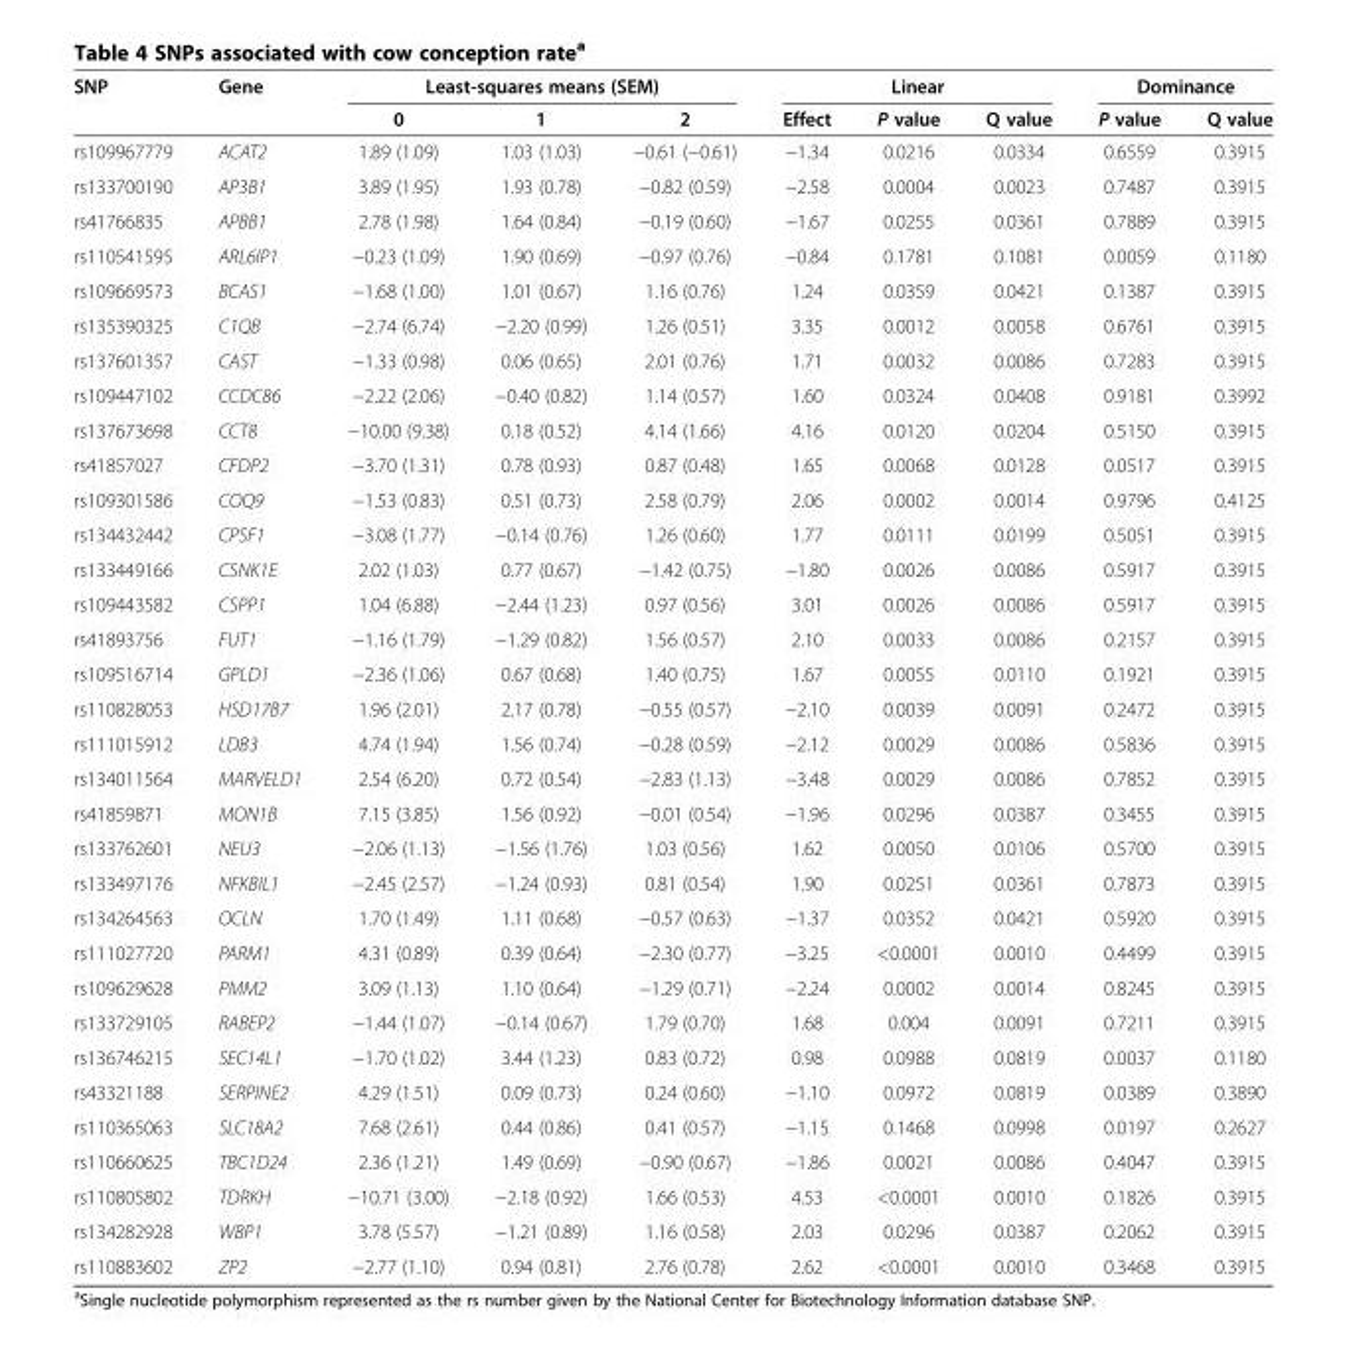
<table><thead><tr><td rowspan="2">SNP</td><td rowspan="2">Gene</td><td colspan="3">Least-squares means (SEM)</td><td colspan="3">Linear</td><td colspan="2">Dominance</td></tr><tr><td>0</td><td>1</td><td>2</td><td>Effect</td><td>P value</td><td>Q value</td><td>P value</td><td>Q value</td></tr></thead><tbody><tr><td>rs109967779</td><td>ACAT2</td><td>1.89 (1.09)</td><td>1.03 (1.03)</td><td>−0.61 (−0.61)</td><td>−1.34</td><td>0.0216</td><td>0.0334</td><td>0.6559</td><td>0.3915</td></tr><tr><td>rs133700190</td><td>AP3B1</td><td>3.89 (1.95)</td><td>1.93 (0.78)</td><td>−0.82 (0.59)</td><td>−2.58</td><td>0.0004</td><td>0.0023</td><td>0.7487</td><td>0.3915</td></tr><tr><td>rs41766835</td><td>APBB1</td><td>2.78 (1.98)</td><td>1.64 (0.84)</td><td>−0.19 (0.60)</td><td>−1.67</td><td>0.0255</td><td>0.0361</td><td>0.7889</td><td>0.3915</td></tr><tr><td>rs110541595</td><td>ARL6IP1</td><td>−0.23 (1.09)</td><td>1.90 (0.69)</td><td>−0.97 (0.76)</td><td>−0.84</td><td>0.1781</td><td>0.1081</td><td>0.0059</td><td>0.1180</td></tr><tr><td>rs109669573</td><td>BCAS1</td><td>−1.68 (1.00)</td><td>1.01 (0.67)</td><td>1.16 (0.76)</td><td>1.24</td><td>0.0359</td><td>0.0421</td><td>0.1387</td><td>0.3915</td></tr><tr><td>rs135390325</td><td>C1QB</td><td>−2.74 (6.74)</td><td>−2.20 (0.99)</td><td>1.26 (0.51)</td><td>3.35</td><td>0.0012</td><td>0.0058</td><td>0.6761</td><td>0.3915</td></tr><tr><td>rs137601357</td><td>CAST</td><td>−1.33 (0.98)</td><td>0.06 (0.65)</td><td>2.01 (0.76)</td><td>1.71</td><td>0.0032</td><td>0.0086</td><td>0.7283</td><td>0.3915</td></tr><tr><td>rs109447102</td><td>CCDC86</td><td>−2.22 (2.06)</td><td>−0.40 (0.82)</td><td>1.14 (0.57)</td><td>1.60</td><td>0.0324</td><td>0.0408</td><td>0.9181</td><td>0.3992</td></tr><tr><td>rs137673698</td><td>CCT8</td><td>−10.00 (9.38)</td><td>0.18 (0.52)</td><td>4.14 (1.66)</td><td>4.16</td><td>0.0120</td><td>0.0204</td><td>0.5150</td><td>0.3915</td></tr><tr><td>rs41857027</td><td>CFDP2</td><td>−3.70 (1.31)</td><td>0.78 (0.93)</td><td>0.87 (0.48)</td><td>1.65</td><td>0.0068</td><td>0.0128</td><td>0.0517</td><td>0.3915</td></tr><tr><td>rs109301586</td><td>COQ9</td><td>−1.53 (0.83)</td><td>0.51 (0.73)</td><td>2.58 (0.79)</td><td>2.06</td><td>0.0002</td><td>0.0014</td><td>0.9796</td><td>0.4125</td></tr><tr><td>rs134432442</td><td>CPSF1</td><td>−3.08 (1.77)</td><td>−0.14 (0.76)</td><td>1.26 (0.60)</td><td>1.77</td><td>0.0111</td><td>0.0199</td><td>0.5051</td><td>0.3915</td></tr><tr><td>rs133449166</td><td>CSNK1E</td><td>2.02 (1.03)</td><td>0.77 (0.67)</td><td>−1.42 (0.75)</td><td>−1.80</td><td>0.0026</td><td>0.0086</td><td>0.5917</td><td>0.3915</td></tr><tr><td>rs109443582</td><td>CSPP1</td><td>1.04 (6.88)</td><td>−2.44 (1.23)</td><td>0.97 (0.56)</td><td>3.01</td><td>0.0026</td><td>0.0086</td><td>0.5917</td><td>0.3915</td></tr><tr><td>rs41893756</td><td>FUT1</td><td>−1.16 (1.79)</td><td>−1.29 (0.82)</td><td>1.56 (0.57)</td><td>2.10</td><td>0.0033</td><td>0.0086</td><td>0.2157</td><td>0.3915</td></tr><tr><td>rs109516714</td><td>GPLD1</td><td>−2.36 (1.06)</td><td>0.67 (0.68)</td><td>1.40 (0.75)</td><td>1.67</td><td>0.0055</td><td>0.0110</td><td>0.1921</td><td>0.3915</td></tr><tr><td>rs110828053</td><td>HSD17B7</td><td>1.96 (2.01)</td><td>2.17 (0.78)</td><td>−0.55 (0.57)</td><td>−2.10</td><td>0.0039</td><td>0.0091</td><td>0.2472</td><td>0.3915</td></tr><tr><td>rs111015912</td><td>LDB3</td><td>4.74 (1.94)</td><td>1.56 (0.74)</td><td>−0.28 (0.59)</td><td>−2.12</td><td>0.0029</td><td>0.0086</td><td>0.5836</td><td>0.3915</td></tr><tr><td>rs134011564</td><td>MARVELD1</td><td>2.54 (6.20)</td><td>0.72 (0.54)</td><td>−2.83 (1.13)</td><td>−3.48</td><td>0.0029</td><td>0.0086</td><td>0.7852</td><td>0.3915</td></tr><tr><td>rs41859871</td><td>MON1B</td><td>7.15 (3.85)</td><td>1.56 (0.92)</td><td>−0.01 (0.54)</td><td>−1.96</td><td>0.0296</td><td>0.0387</td><td>0.3455</td><td>0.3915</td></tr><tr><td>rs133762601</td><td>NEU3</td><td>−2.06 (1.13)</td><td>−1.56 (1.76)</td><td>1.03 (0.56)</td><td>1.62</td><td>0.0050</td><td>0.0106</td><td>0.5700</td><td>0.3915</td></tr><tr><td>rs133497176</td><td>NFKBIL1</td><td>−2.45 (2.57)</td><td>−1.24 (0.93)</td><td>0.81 (0.54)</td><td>1.90</td><td>0.0251</td><td>0.0361</td><td>0.7873</td><td>0.3915</td></tr><tr><td>rs134264563</td><td>OCLN</td><td>1.70 (1.49)</td><td>1.11 (0.68)</td><td>−0.57 (0.63)</td><td>−1.37</td><td>0.0352</td><td>0.0421</td><td>0.5920</td><td>0.3915</td></tr><tr><td>rs111027720</td><td>PARM1</td><td>4.31 (0.89)</td><td>0.39 (0.64)</td><td>−2.30 (0.77)</td><td>−3.25</td><td>&lt;0.0001</td><td>0.0010</td><td>0.4499</td><td>0.3915</td></tr><tr><td>rs109629628</td><td>PMM2</td><td>3.09 (1.13)</td><td>1.10 (0.64)</td><td>−1.29 (0.71)</td><td>−2.24</td><td>0.0002</td><td>0.0014</td><td>0.8245</td><td>0.3915</td></tr><tr><td>rs133729105</td><td>RABEP2</td><td>−1.44 (1.07)</td><td>−0.14 (0.67)</td><td>1.79 (0.70)</td><td>1.68</td><td>0.004</td><td>0.0091</td><td>0.7211</td><td>0.3915</td></tr><tr><td>rs136746215</td><td>SEC14L1</td><td>−1.70 (1.02)</td><td>3.44 (1.23)</td><td>0.83 (0.72)</td><td>0.98</td><td>0.0988</td><td>0.0819</td><td>0.0037</td><td>0.1180</td></tr><tr><td>rs43321188</td><td>SERPINE2</td><td>4.29 (1.51)</td><td>0.09 (0.73)</td><td>0.24 (0.60)</td><td>−1.10</td><td>0.0972</td><td>0.0819</td><td>0.0389</td><td>0.3890</td></tr><tr><td>rs110365063</td><td>SLC18A2</td><td>7.68 (2.61)</td><td>0.44 (0.86)</td><td>0.41 (0.57)</td><td>−1.15</td><td>0.1468</td><td>0.0998</td><td>0.0197</td><td>0.2627</td></tr><tr><td>rs110660625</td><td>TBC1D24</td><td>2.36 (1.21)</td><td>1.49 (0.69)</td><td>−0.90 (0.67)</td><td>−1.86</td><td>0.0021</td><td>0.0086</td><td>0.4047</td><td>0.3915</td></tr><tr><td>rs110805802</td><td>TDRKH</td><td>−10.71 (3.00)</td><td>−2.18 (0.92)</td><td>1.66 (0.53)</td><td>4.53</td><td>&lt;0.0001</td><td>0.0010</td><td>0.1826</td><td>0.3915</td></tr><tr><td>rs134282928</td><td>WBP1</td><td>3.78 (5.57)</td><td>−1.21 (0.89)</td><td>1.16 (0.58)</td><td>2.03</td><td>0.0296</td><td>0.0387</td><td>0.2062</td><td>0.3915</td></tr><tr><td>rs110883602</td><td>ZP2</td><td>−2.77 (1.10)</td><td>0.94 (0.81)</td><td>2.76 (0.78)</td><td>2.62</td><td>&lt;0.0001</td><td>0.0010</td><td>0.3468</td><td>0.3915</td></tr></tbody></table>